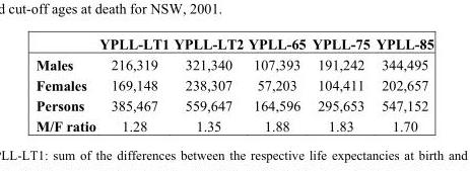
<table><thead><tr><td></td><td>YPLL-LT1</td><td>YPLL-LT2</td><td>YPLL-65</td><td>YPLL-75</td><td>YPLL-85</td></tr></thead><tbody><tr><td>Males</td><td>216,319</td><td>321,340</td><td>107,393</td><td>191,242</td><td>344,495</td></tr><tr><td>Females</td><td>169,148</td><td>238,307</td><td>57,203</td><td>104,411</td><td>202,657</td></tr><tr><td>Persons</td><td>385,467</td><td>559,647</td><td>164,596</td><td>295,653</td><td>547,152</td></tr><tr><td>M/F ratio</td><td>1.28</td><td>1.35</td><td>1.88</td><td>1.83</td><td>1.70</td></tr></tbody></table>